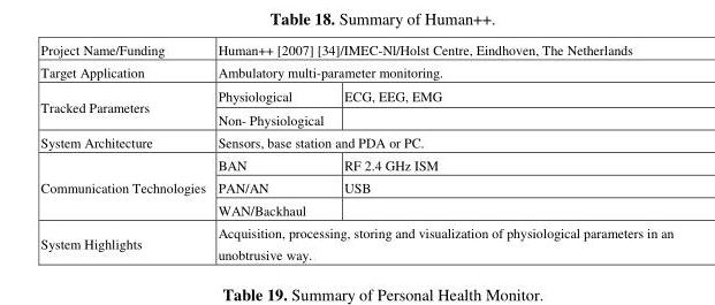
<table><tbody><tr><td>Project Name/Funding</td><td colspan="2">Human++ [2007] [34]/IMEC-Nl/Holst Centre, Eindhoven, The Netherlands</td></tr><tr><td>Target Application</td><td colspan="2">Ambulatory multi-parameter monitoring.</td></tr><tr><td rowspan="2">Tracked Parameters</td><td>Physiological</td><td>ECG, EEG, EMG</td></tr><tr><td>Non- Physiological</td><td></td></tr><tr><td>System Architecture</td><td colspan="2">Sensors, base station and PDA or PC.</td></tr><tr><td rowspan="3">Communication Technologies</td><td>BAN</td><td>RF 2.4 GHz ISM</td></tr><tr><td>PAN/AN</td><td>USB</td></tr><tr><td>WAN/Backhaul</td><td></td></tr><tr><td>System Highlights</td><td colspan="2">Acquisition, processing, storing and visualization of physiological parameters in an unobtrusive way.</td></tr></tbody></table>